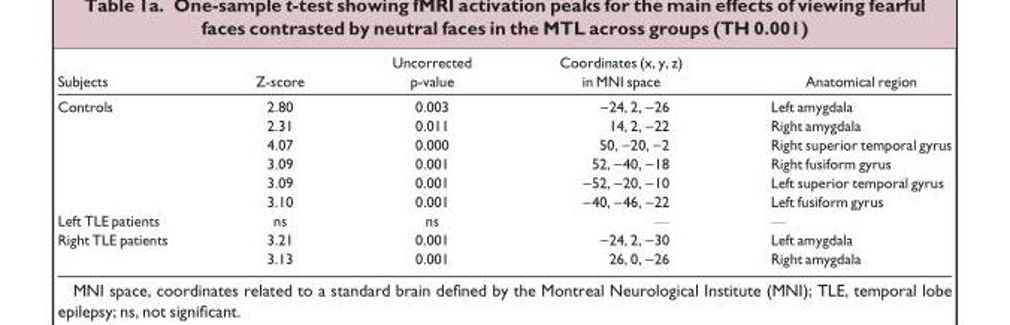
<table><thead><tr><td rowspan="2">Subjects</td><td rowspan="2">Z-score</td><td rowspan="2">Uncorrected p-value</td><td rowspan="2">Coordinates (x, y, z) in MNI space</td><td rowspan="2">Anatomical region</td></tr><tr></tr></thead><tbody><tr><td rowspan="6">Controls</td><td>2.80</td><td>0.003</td><td>−24, 2, −26</td><td>Left amygdala</td></tr><tr><td>2.31</td><td>0.011</td><td>14, 2, −22</td><td>Right amygdala</td></tr><tr><td>4.07</td><td>0.000</td><td>50, −20, −2</td><td>Right superior temporal gyrus</td></tr><tr><td>3.09</td><td>0.001</td><td>52, −40, −18</td><td>Right fusiform gyrus</td></tr><tr><td>3.09</td><td>0.001</td><td>−52, −20, −10</td><td>Left superior temporal gyrus</td></tr><tr><td>3.10</td><td>0.001</td><td>−40, −46, −22</td><td>Left fusiform gyrus</td></tr><tr><td>Left TLE patients</td><td>ns</td><td>ns</td><td>—</td><td>—</td></tr><tr><td rowspan="2">Right TLE patients</td><td>3.21</td><td>0.001</td><td>−24, 2, −30</td><td>Left amygdala</td></tr><tr><td>3.13</td><td>0.001</td><td>26, 0, −26</td><td>Right amygdala</td></tr></tbody></table>